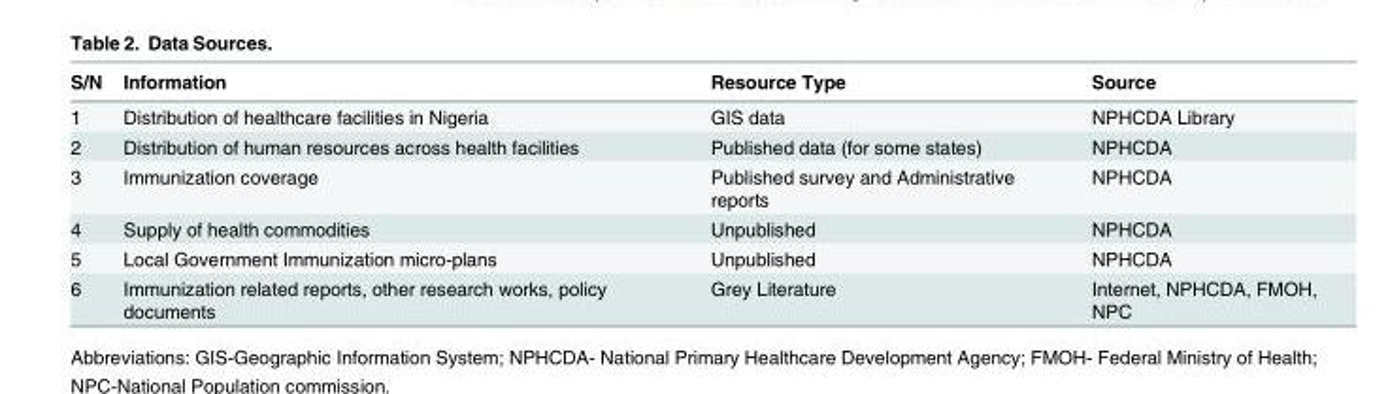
<table><thead><tr><td>S/N</td><td>Information</td><td>Resource Type</td><td>Source</td></tr></thead><tbody><tr><td>1</td><td>Distribution of healthcare facilities in Nigeria</td><td>GIS data</td><td>NPHCDA Library</td></tr><tr><td>2</td><td>Distribution of human resources across health facilities</td><td>Published data (for some states)</td><td>NPHCDA</td></tr><tr><td>3</td><td>Immunization coverage</td><td>Published survey and Administrative reports</td><td>NPHCDA</td></tr><tr><td>4</td><td>Supply of health commodities</td><td>Unpublished</td><td>NPHCDA</td></tr><tr><td>5</td><td>Local Government Immunization micro-plans</td><td>Unpublished</td><td>NPHCDA</td></tr><tr><td>6</td><td>Immunization related reports, other research works, policy documents</td><td>Grey Literature</td><td>Internet, NPHCDA, FMOH, NPC</td></tr></tbody></table>